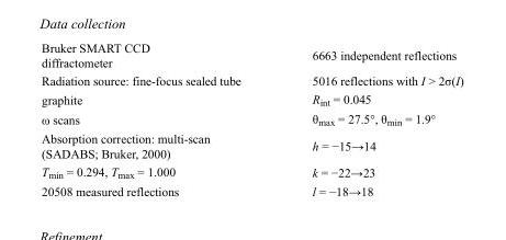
<table><tbody><tr><td>Bruker SMART CCD diffractometer</td><td>6663 independent reflections</td></tr><tr><td>Radiation source: fine-focus sealed tube</td><td>5016 reflections with I &gt; 2σ(I)</td></tr><tr><td>graphite</td><td>R<sub>int</sub> = 0.045</td></tr><tr><td>ω scans</td><td>θ<sub>max</sub> = 27.5°, θ<sub>min</sub> = 1.9°</td></tr><tr><td>Absorption correction: multi-scan (SADABS; Bruker, 2000)</td><td>h = −15→14</td></tr><tr><td>T<sub>min</sub> = 0.294, T<sub>max</sub> = 1.000</td><td>k = −22→23</td></tr><tr><td>20508 measured reflections</td><td>l = −18→18</td></tr></tbody></table>